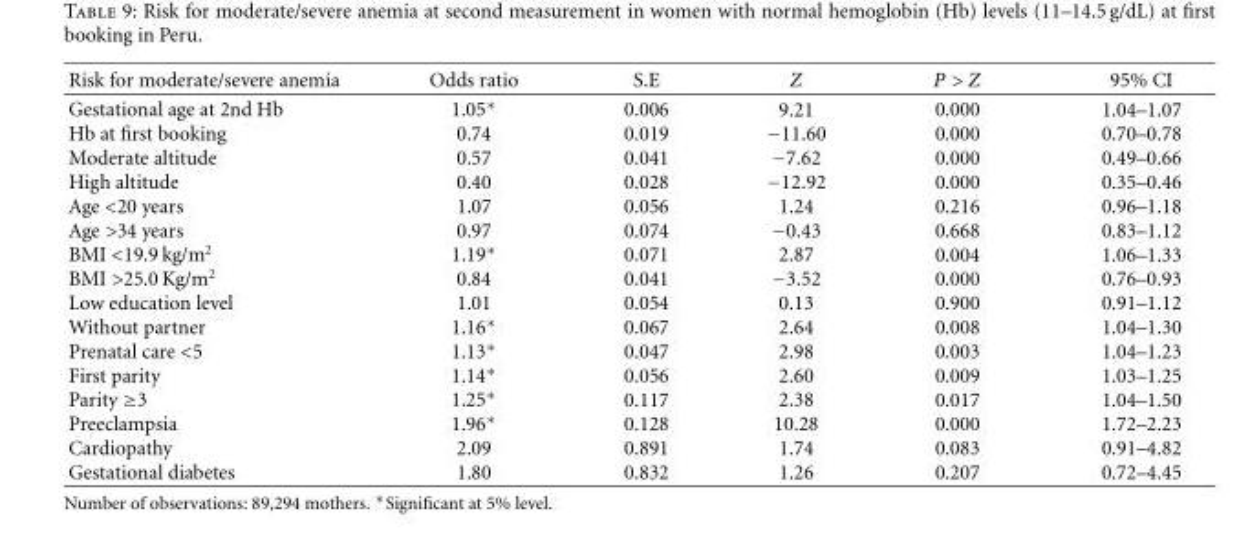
<table><thead><tr><td>Risk for moderate/severe anemia</td><td>Odds ratio</td><td>S.E</td><td>Z</td><td>P &gt; Z</td><td>95% CI</td></tr></thead><tbody><tr><td>Gestational age at 2nd Hb Hb at first booking Moderate altitude High altitude Age &lt;20 years Age &gt;34 years BMI &lt;19.9 kg/m<sup>2</sup> BMI &gt;25.0 Kg/m<sup>2</sup> Low education level Without partner Prenatal care &lt;5 First parity Parity ≥3 Preeclampsia Cardiopathy Gestational diabetes</td><td>1.05∗ 0.74 0.57 0.40 1.07 0.97 1.19∗ 0.84 1.01 1.16∗ 1.13∗ 1.14∗ 1.25∗ 1.96∗ 2.09 1.80</td><td>0.006 0.019 0.041 0.028 0.056 0.074 0.071 0.041 0.054 0.067 0.047 0.056 0.117 0.128 0.891 0.832</td><td>9.21 −11.60 −7.62 −12.92 1.24 −0.43 2.87 −3.52 0.13 2.64 2.98 2.60 2.38 10.28 1.74 1.26</td><td>0.000 0.000 0.000 0.000 0.216 0.668 0.004 0.000 0.900 0.008 0.003 0.009 0.017 0.000 0.083 0.207</td><td>1.04–1.07 0.70–0.78 0.49–0.66 0.35–0.46 0.96–1.18 0.83–1.12 1.06–1.33 0.76–0.93 0.91–1.12 1.04–1.30 1.04–1.23 1.03–1.25 1.04–1.50 1.72–2.23 0.91–4.82 0.72–4.45</td></tr></tbody></table>